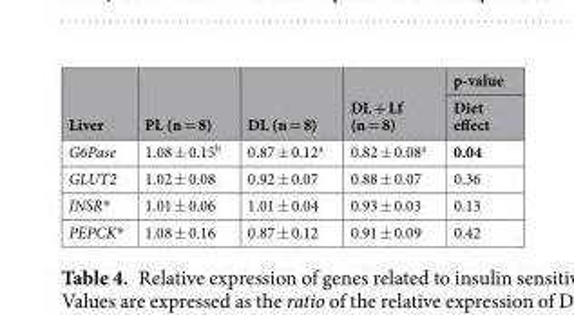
<table><thead><tr><td rowspan="2">Liver</td><td rowspan="2">PL (n = 8)</td><td rowspan="2">DL (n = 8)</td><td rowspan="2">DL + Lf (n = 8)</td><td rowspan="2">p-value Diet effect</td></tr><tr></tr></thead><tbody><tr><td>G6Pase</td><td>1.08 ± 0.15<sup>b</sup></td><td>0.87 ± 0.12<sup>a</sup></td><td>0.82 ± 0.08<sup>a</sup></td><td>0.04</td></tr><tr><td>GLUT2</td><td>1.02 ± 0.08</td><td>0.92 ± 0.07</td><td>0.88 ± 0.07</td><td>0.36</td></tr><tr><td>INSR*</td><td>1.01 ± 0.06</td><td>1.01 ± 0.04</td><td>0.93 ± 0.03</td><td>0.13</td></tr><tr><td>PEPCK*</td><td>1.08 ± 0.16</td><td>0.87 ± 0.12</td><td>0.91 ± 0.09</td><td>0.42</td></tr></tbody></table>